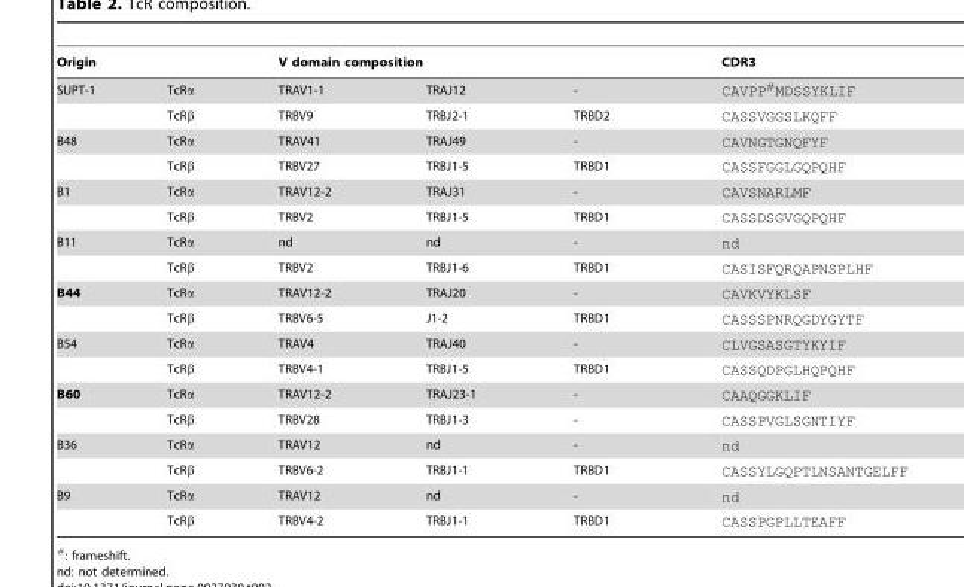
<table><thead><tr><td rowspan="2">Origin SUPT-1</td><td rowspan="2">TcRα</td><td colspan="3">V domain composition</td><td rowspan="2">CDR3 CAVPP#MDSSYKLIF</td></tr><tr><td>TRAV1-1</td><td>TRAJ12</td><td>-</td></tr></thead><tbody><tr><td></td><td>TcRβ</td><td>TRBV9</td><td>TRBJ2-1</td><td>TRBD2</td><td>CASSVGGSLKQFF</td></tr><tr><td rowspan="2">B48</td><td>TcRα</td><td>TRAV41</td><td>TRAJ49</td><td>-</td><td>CAVNGTGNQFYF</td></tr><tr><td>TcRβ</td><td>TRBV27</td><td>TRBJ1-5</td><td>TRBD1</td><td>CASSFGGLGQPQHF</td></tr><tr><td rowspan="2">B1</td><td>TcRα</td><td>TRAV12-2</td><td>TRAJ31</td><td>-</td><td>CAVSNARLMF</td></tr><tr><td>TcRβ</td><td>TRBV2</td><td>TRBJ1-5</td><td>TRBD1</td><td>CASSDSGVGQPQHF</td></tr><tr><td rowspan="2">B11</td><td>TcRα</td><td>nd</td><td>nd</td><td>-</td><td>nd</td></tr><tr><td>TcRβ</td><td>TRBV2</td><td>TRBJ1-6</td><td>TRBD1</td><td>CASISFQRQAPNSPLHF</td></tr><tr><td rowspan="2">B44</td><td>TcRα</td><td>TRAV12-2</td><td>TRAJ20</td><td>-</td><td>CAVKVYKLSF</td></tr><tr><td>TcRβ</td><td>TRBV6-5</td><td>J1-2</td><td>TRBD1</td><td>CASSSPNRQGDYGYTF</td></tr><tr><td rowspan="2">B54</td><td>TcRα</td><td>TRAV4</td><td>TRAJ40</td><td>-</td><td>CLVGSASGTYKYIF</td></tr><tr><td>TcRβ</td><td>TRBV4-1</td><td>TRBJ1-5</td><td>TRBD1</td><td>CASSQDPGLHQPQHF</td></tr><tr><td rowspan="2">B60</td><td>TcRα</td><td>TRAV12-2</td><td>TRAJ23-1</td><td>-</td><td>CAAQGGKLIF</td></tr><tr><td>TcRβ</td><td>TRBV28</td><td>TRBJ1-3</td><td>-</td><td>CASSPVGLSGNTIYF</td></tr><tr><td rowspan="2">B36</td><td>TcRα</td><td>TRAV12</td><td>nd</td><td>-</td><td>nd</td></tr><tr><td>TcRβ</td><td>TRBV6-2</td><td>TRBJ1-1</td><td>TRBD1</td><td>CASSYLGQPTLNSANTGELFF</td></tr><tr><td rowspan="2">B9</td><td>TcRα</td><td>TRAV12</td><td>nd</td><td>-</td><td>nd</td></tr><tr><td>TcRβ</td><td>TRBV4-2</td><td>TRBJ1-1</td><td>TRBD1</td><td>CASSPGPLLTEAFF</td></tr></tbody></table>